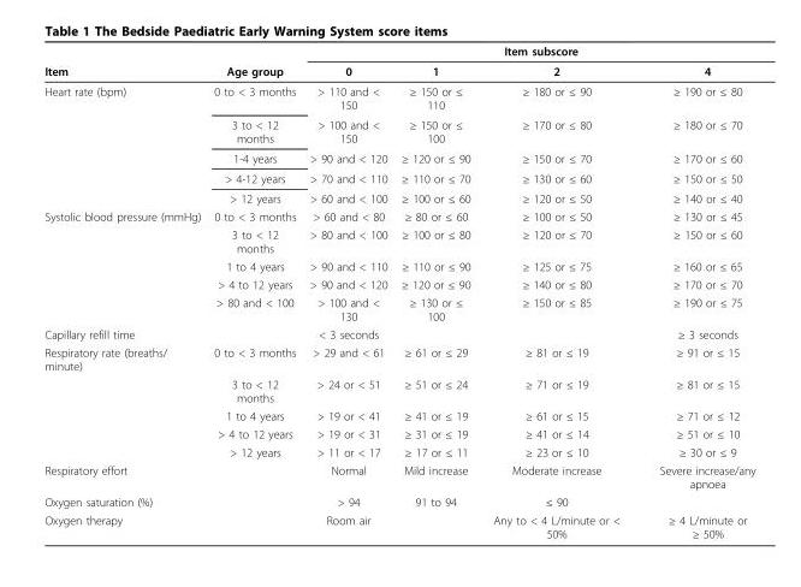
<table><thead><tr><td rowspan="2">Item</td><td rowspan="2">Age group</td><td colspan="4">Item subscore</td></tr><tr><td>0</td><td>1</td><td>2</td><td>4</td></tr></thead><tbody><tr><td rowspan="5">Heart rate (bpm)</td><td>0 to &lt; 3 months</td><td>&gt; 110 and &lt; 150</td><td>≥ 150 or ≤ 110</td><td>≥ 180 or ≤ 90</td><td>≥ 190 or ≤ 80</td></tr><tr><td>3 to &lt; 12 months</td><td>&gt; 100 and &lt; 150</td><td>≥ 150 or ≤ 100</td><td>≥ 170 or ≤ 80</td><td>≥ 180 or ≤ 70</td></tr><tr><td>1-4 years</td><td>&gt; 90 and &lt; 120</td><td>≥ 120 or ≤ 90</td><td>≥ 150 or ≤ 70</td><td>≥ 170 or ≤ 60</td></tr><tr><td>&gt; 4-12 years</td><td>&gt; 70 and &lt; 110</td><td>≥ 110 or ≤ 70</td><td>≥ 130 or ≤ 60</td><td>≥ 150 or ≤ 50</td></tr><tr><td>&gt; 12 years</td><td>&gt; 60 and &lt; 100</td><td>≥ 100 or ≤ 60</td><td>≥ 120 or ≤ 50</td><td>≥ 140 or ≤ 40</td></tr><tr><td rowspan="5">Systolic blood pressure (mmHg)</td><td>0 to &lt; 3 months</td><td>&gt; 60 and &lt; 80</td><td>≥ 80 or ≤ 60</td><td>≥ 100 or ≤ 50</td><td>≥ 130 or ≤ 45</td></tr><tr><td>3 to &lt; 12 months</td><td>&gt; 80 and &lt; 100</td><td>≥ 100 or ≤ 80</td><td>≥ 120 or ≤ 70</td><td>≥ 150 or ≤ 60</td></tr><tr><td>1 to 4 years</td><td>&gt; 90 and &lt; 110</td><td>≥ 110 or ≤ 90</td><td>≥ 125 or ≤ 75</td><td>≥ 160 or ≤ 65</td></tr><tr><td>&gt; 4 to 12 years</td><td>&gt; 90 and &lt; 120</td><td>≥ 120 or ≤ 90</td><td>≥ 140 or ≤ 80</td><td>≥ 170 or ≤ 70</td></tr><tr><td>&gt; 80 and &lt; 100</td><td>&gt; 100 and &lt; 130</td><td>≥ 130 or ≤ 100</td><td>≥ 150 or ≤ 85</td><td>≥ 190 or ≤ 75</td></tr><tr><td>Capillary refill time</td><td></td><td>&lt; 3 seconds</td><td></td><td></td><td>≥ 3 seconds</td></tr><tr><td rowspan="5">Respiratory rate (breaths/ minute)</td><td>0 to &lt; 3 months</td><td>&gt; 29 and &lt; 61</td><td>≥ 61 or ≤ 29</td><td>≥ 81 or ≤ 19</td><td>≥ 91 or ≤ 15</td></tr><tr><td>3 to &lt; 12 months</td><td>&gt; 24 or &lt; 51</td><td>≥ 51 or ≤ 24</td><td>≥ 71 or ≤ 19</td><td>≥ 81 or ≤ 15</td></tr><tr><td>1 to 4 years</td><td>&gt; 19 or &lt; 41</td><td>≥ 41 or ≤ 19</td><td>≥ 61 or ≤ 15</td><td>≥ 71 or ≤ 12</td></tr><tr><td>&gt; 4 to 12 years</td><td>&gt; 19 or &lt; 31</td><td>≥ 31 or ≤ 19</td><td>≥ 41 or ≤ 14</td><td>≥ 51 or ≤ 10</td></tr><tr><td>&gt; 12 years</td><td>&gt; 11 or &lt; 17</td><td>≥ 17 or ≤ 11</td><td>≥ 23 or ≤ 10</td><td>≥ 30 or ≤ 9</td></tr><tr><td>Respiratory effort</td><td></td><td>Normal</td><td>Mild increase</td><td>Moderate increase</td><td>Severe increase/any apnoea</td></tr><tr><td>Oxygen saturation (%)</td><td></td><td>&gt; 94</td><td>91 to 94</td><td>≤ 90</td><td></td></tr><tr><td>Oxygen therapy</td><td></td><td>Room air</td><td></td><td>Any to &lt; 4 L/minute or &lt; 50%</td><td>≥ 4 L/minute or ≥ 50%</td></tr></tbody></table>